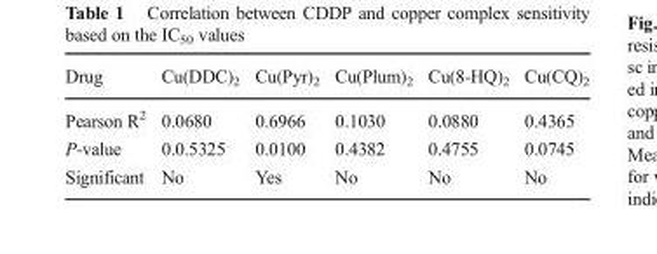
<table><thead><tr><td>Drug</td><td>Cu(DDC)<sub>2</sub></td><td>Cu(Pyr)<sub>2</sub></td><td>Cu(Plum)<sub>2</sub></td><td>Cu(8-HQ)<sub>2</sub></td><td>Cu(CQ)<sub>2</sub></td></tr></thead><tbody><tr><td>Pearson R<sup>2</sup></td><td>0.0680</td><td>0.6966</td><td>0.1030</td><td>0.0880</td><td>0.4365</td></tr><tr><td>P-value</td><td>0.0.5325</td><td>0.0100</td><td>0.4382</td><td>0.4755</td><td>0.0745</td></tr><tr><td>Significant</td><td>No</td><td>Yes</td><td>No</td><td>No</td><td>No</td></tr></tbody></table>